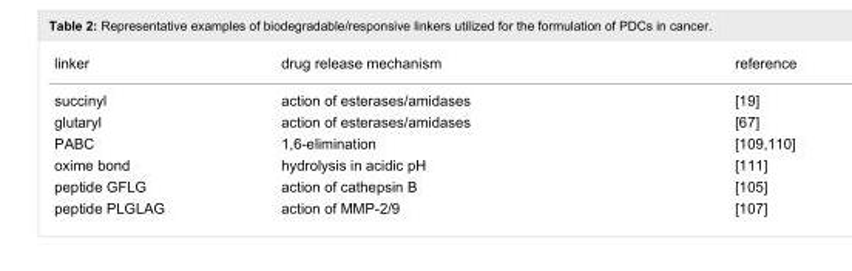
<table><tbody><tr><td>linker</td><td>drug release mechanism</td><td>reference</td></tr><tr><td>succinyl</td><td>action of esterases/amidases</td><td>[19]</td></tr><tr><td>glutaryl</td><td>action of esterases/amidases</td><td>[67]</td></tr><tr><td>PABC</td><td>1,6-elimination</td><td>[109–110]</td></tr><tr><td>oxime bond</td><td>hydrolysis in acidic pH</td><td>[111]</td></tr><tr><td>peptide GFLG</td><td>action of cathepsin B</td><td>[105]</td></tr><tr><td>peptide PLGLAG</td><td>action of MMP-2/9</td><td>[107]</td></tr></tbody></table>